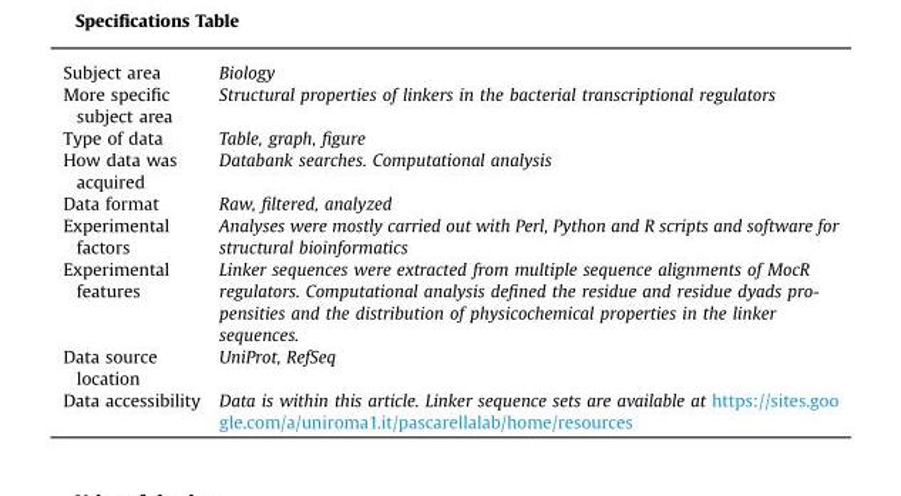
<table><tbody><tr><td>Subject area</td><td>Biology</td></tr><tr><td>More specific subject area</td><td>Structural properties of linkers in the bacterial transcriptional regulators</td></tr><tr><td>Type of data</td><td>Table, graph, figure</td></tr><tr><td>How data was acquired</td><td>Databank searches. Computational analysis</td></tr><tr><td>Data format</td><td>Raw, filtered, analyzed</td></tr><tr><td>Experimental factors</td><td>Analyses were mostly carried out with Perl, Python and R scripts and software for structural bioinformatics</td></tr><tr><td>Experimental features</td><td>Linker sequences were extracted from multiple sequence alignments of MocR regulators. Computational analysis defined the residue and residue dyads pro- pensities and the distribution of physicochemical properties in the linker sequences.</td></tr><tr><td>Data source location</td><td>UniProt, RefSeq</td></tr><tr><td>Data accessibility</td><td>Data is within this article. Linker sequence sets are available at https://sites.goo gle.com/a/uniroma1.it/pascarellalab/home/resources</td></tr></tbody></table>